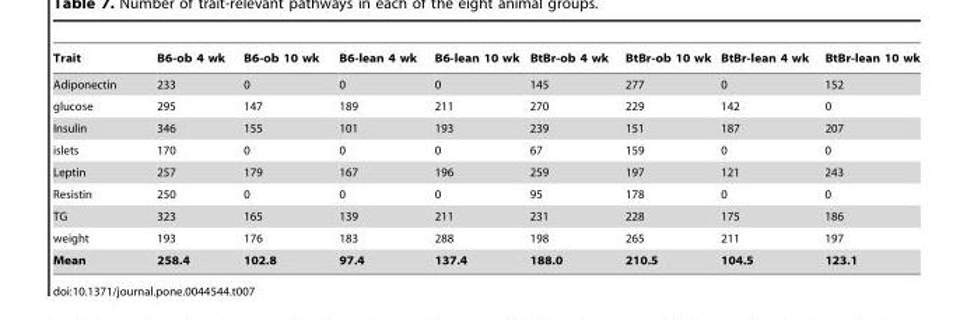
<table><thead><tr><td>Trait</td><td>B6-ob 4 wk</td><td>B6-ob 10 wk</td><td>B6-lean 4 wk</td><td>B6-lean 10 wk</td><td>BtBr-ob 4 wk</td><td>BtBr-ob 10 wk</td><td>BtBr-lean 4 wk</td><td>BtBr-lean 10 wk</td></tr></thead><tbody><tr><td>Adiponectin</td><td>233</td><td>0</td><td>0</td><td>0</td><td>145</td><td>277</td><td>0</td><td>152</td></tr><tr><td>glucose</td><td>295</td><td>147</td><td>189</td><td>211</td><td>270</td><td>229</td><td>142</td><td>0</td></tr><tr><td>Insulin</td><td>346</td><td>155</td><td>101</td><td>193</td><td>239</td><td>151</td><td>187</td><td>207</td></tr><tr><td>islets</td><td>170</td><td>0</td><td>0</td><td>0</td><td>67</td><td>159</td><td>0</td><td>0</td></tr><tr><td>Leptin</td><td>257</td><td>179</td><td>167</td><td>196</td><td>259</td><td>197</td><td>121</td><td>243</td></tr><tr><td>Resistin</td><td>250</td><td>0</td><td>0</td><td>0</td><td>95</td><td>178</td><td>0</td><td>0</td></tr><tr><td>TG</td><td>323</td><td>165</td><td>139</td><td>211</td><td>231</td><td>228</td><td>175</td><td>186</td></tr><tr><td>weight</td><td>193</td><td>176</td><td>183</td><td>288</td><td>198</td><td>265</td><td>211</td><td>197</td></tr><tr><td>Mean</td><td>258.4</td><td>102.8</td><td>97.4</td><td>137.4</td><td>188.0</td><td>210.5</td><td>104.5</td><td>123.1</td></tr></tbody></table>